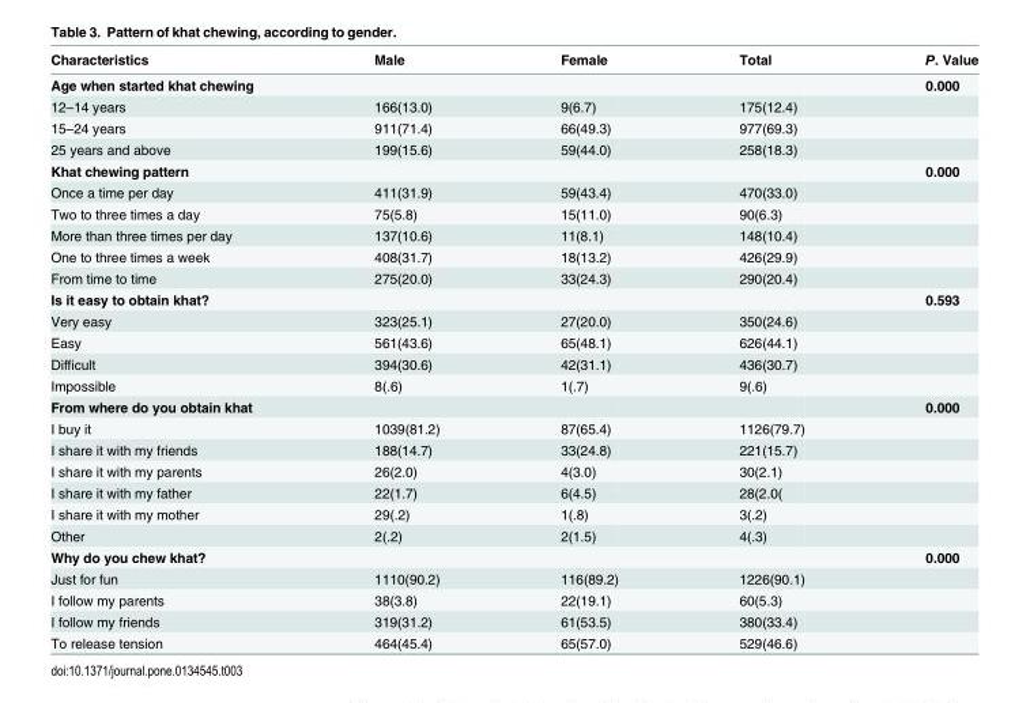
<table><thead><tr><td>Characteristics</td><td>Male</td><td>Female</td><td>Total</td><td>P. Value</td></tr></thead><tbody><tr><td>Age when started khat chewing</td><td></td><td></td><td></td><td>0.000</td></tr><tr><td>12–14 years</td><td>166(13.0)</td><td>9(6.7)</td><td>175(12.4)</td><td></td></tr><tr><td>15–24 years</td><td>911(71.4)</td><td>66(49.3)</td><td>977(69.3)</td><td></td></tr><tr><td>25 years and above</td><td>199(15.6)</td><td>59(44.0)</td><td>258(18.3)</td><td></td></tr><tr><td>Khat chewing pattern</td><td></td><td></td><td></td><td>0.000</td></tr><tr><td>Once a time per day</td><td>411(31.9)</td><td>59(43.4)</td><td>470(33.0)</td><td></td></tr><tr><td>Two to three times a day</td><td>75(5.8)</td><td>15(11.0)</td><td>90(6.3)</td><td></td></tr><tr><td>More than three times per day</td><td>137(10.6)</td><td>11(8.1)</td><td>148(10.4)</td><td></td></tr><tr><td>One to three times a week</td><td>408(31.7)</td><td>18(13.2)</td><td>426(29.9)</td><td></td></tr><tr><td>From time to time</td><td>275(20.0)</td><td>33(24.3)</td><td>290(20.4)</td><td></td></tr><tr><td>Is it easy to obtain khat?</td><td></td><td></td><td></td><td>0.593</td></tr><tr><td>Very easy</td><td>323(25.1)</td><td>27(20.0)</td><td>350(24.6)</td><td></td></tr><tr><td>Easy</td><td>561(43.6)</td><td>65(48.1)</td><td>626(44.1)</td><td></td></tr><tr><td>Difficult</td><td>394(30.6)</td><td>42(31.1)</td><td>436(30.7)</td><td></td></tr><tr><td>Impossible</td><td>8(.6)</td><td>1(.7)</td><td>9(.6)</td><td></td></tr><tr><td>From where do you obtain khat</td><td></td><td></td><td></td><td>0.000</td></tr><tr><td>I buy it</td><td>1039(81.2)</td><td>87(65.4)</td><td>1126(79.7)</td><td></td></tr><tr><td>I share it with my friends</td><td>188(14.7)</td><td>33(24.8)</td><td>221(15.7)</td><td></td></tr><tr><td>I share it with my parents</td><td>26(2.0)</td><td>4(3.0)</td><td>30(2.1)</td><td></td></tr><tr><td>I share it with my father</td><td>22(1.7)</td><td>6(4.5)</td><td>28(2.0(</td><td></td></tr><tr><td>I share it with my mother</td><td>29(.2)</td><td>1(.8)</td><td>3(.2)</td><td></td></tr><tr><td>Other</td><td>2(.2)</td><td>2(1.5)</td><td>4(.3)</td><td></td></tr><tr><td>Why do you chew khat?</td><td></td><td></td><td></td><td>0.000</td></tr><tr><td>Just for fun</td><td>1110(90.2)</td><td>116(89.2)</td><td>1226(90.1)</td><td></td></tr><tr><td>I follow my parents</td><td>38(3.8)</td><td>22(19.1)</td><td>60(5.3)</td><td></td></tr><tr><td>I follow my friends</td><td>319(31.2)</td><td>61(53.5)</td><td>380(33.4)</td><td></td></tr><tr><td>To release tension</td><td>464(45.4)</td><td>65(57.0)</td><td>529(46.6)</td><td></td></tr></tbody></table>